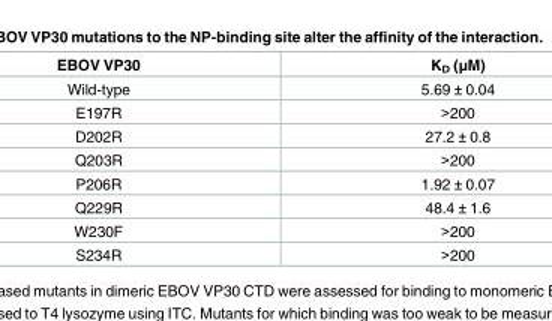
<table><thead><tr><td>EBOV VP30</td><td>K<sub>D</sub> (μM)</td></tr></thead><tbody><tr><td>Wild-type</td><td>5.69 ± 0.04</td></tr><tr><td>E197R</td><td>&gt;200</td></tr><tr><td>D202R</td><td>27.2 ± 0.8</td></tr><tr><td>Q203R</td><td>&gt;200</td></tr><tr><td>P206R</td><td>1.92 ± 0.07</td></tr><tr><td>Q229R</td><td>48.4 ± 1.6</td></tr><tr><td>W230F</td><td>&gt;200</td></tr><tr><td>S234R</td><td>&gt;200</td></tr></tbody></table>